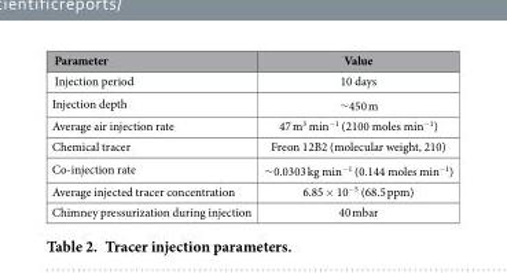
<table><thead><tr><td>Parameter</td><td>Value</td></tr></thead><tbody><tr><td>Injection period</td><td>10 days</td></tr><tr><td>Injection depth</td><td>∼ 450 m</td></tr><tr><td>Average air injection rate</td><td>47 m<sup>3</sup> min<sup>−1</sup> (2100 moles min<sup>−1</sup>)</td></tr><tr><td>Chemical tracer</td><td>Freon 12B2 (molecular weight, 210)</td></tr><tr><td>Co-injection rate</td><td>∼ 0.0303 kg min<sup>−1</sup> (0.144 moles min<sup>−1</sup>)</td></tr><tr><td>Average injected tracer concentration</td><td>6.85 × 10<sup>−5</sup> (68.5 ppm)</td></tr><tr><td>Chimney pressurization during injection</td><td>40 mbar</td></tr></tbody></table>